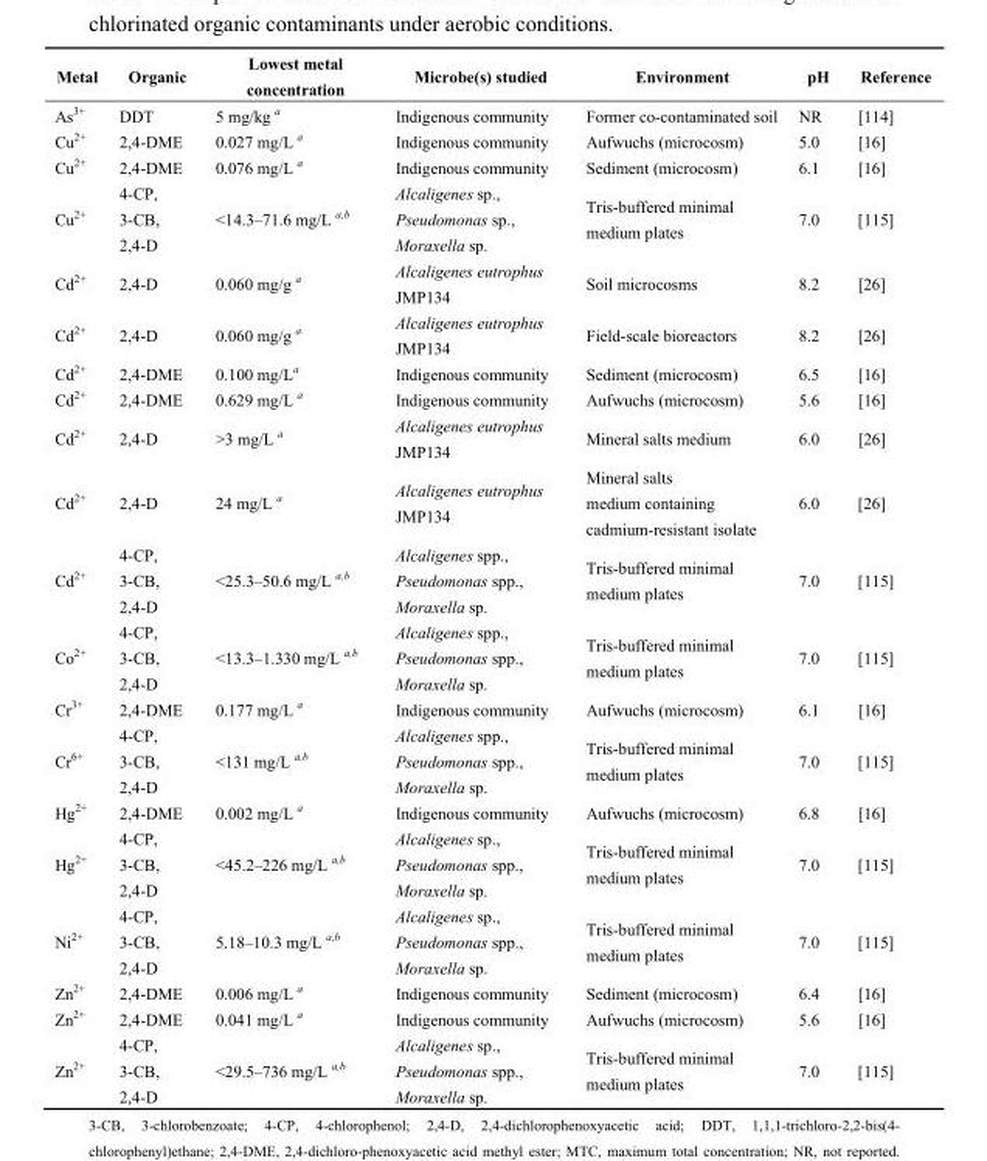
<table><thead><tr><td>Metal</td><td>Organic</td><td>Lowest metal concentration</td><td>Microbe(s) studied</td><td>Environment</td><td>pH</td><td>Reference</td></tr></thead><tbody><tr><td>As<sup>3+</sup></td><td>DDT</td><td>5 mg/kg a</td><td>Indigenous community</td><td>Former co-contaminated soil</td><td>NR</td><td>[114]</td></tr><tr><td>Cu<sup>2+</sup></td><td>2,4-DME</td><td>0.027 mg/L a</td><td>Indigenous community</td><td>Aufwuchs (microcosm)</td><td>5.0</td><td>[16]</td></tr><tr><td>Cu<sup>2+</sup></td><td>2,4-DME</td><td>0.076 mg/L a</td><td>Indigenous community</td><td>Sediment (microcosm)</td><td>6.1</td><td>[16]</td></tr><tr><td>Cu<sup>2+</sup></td><td>4-CP, 3-CB, 2,4-D</td><td>&lt;14.3–71.6 mg/L a,b</td><td>Alcaligenes sp., Pseudomonas sp., Moraxella sp.</td><td>Tris-buffered minimal medium plates</td><td>7.0</td><td>[115]</td></tr><tr><td>Cd<sup>2+</sup></td><td>2,4-D</td><td>0.060 mg/g a</td><td>Alcaligenes eutrophus JMP134</td><td>Soil microcosms</td><td>8.2</td><td>[26]</td></tr><tr><td>Cd<sup>2+</sup></td><td>2,4-D</td><td>0.060 mg/g a</td><td>Alcaligenes eutrophus JMP134</td><td>Field-scale bioreactors</td><td>8.2</td><td>[26]</td></tr><tr><td>Cd<sup>2+</sup></td><td>2,4-DME</td><td>0.100 mg/L<sup>a</sup></td><td>Indigenous community</td><td>Sediment (microcosm)</td><td>6.5</td><td>[16]</td></tr><tr><td>Cd<sup>2+</sup></td><td>2,4-DME</td><td>0.629 mg/L a</td><td>Indigenous community</td><td>Aufwuchs (microcosm)</td><td>5.6</td><td>[16]</td></tr><tr><td>Cd<sup>2+</sup></td><td>2,4-D</td><td>&gt;3 mg/L a</td><td>Alcaligenes eutrophus JMP134</td><td>Mineral salts medium</td><td>6.0</td><td>[26]</td></tr><tr><td>Cd<sup>2+</sup></td><td>2,4-D</td><td>24 mg/L a</td><td>Alcaligenes eutrophus JMP134</td><td>Mineral salts medium containing cadmium-resistant isolate</td><td>6.0</td><td>[26]</td></tr><tr><td>Cd<sup>2+</sup></td><td>4-CP, 3-CB, 2,4-D</td><td>&lt;25.3–50.6 mg/L a,b</td><td>Alcaligenes spp., Pseudomonas spp., Moraxella sp.</td><td>Tris-buffered minimal medium plates</td><td>7.0</td><td>[115]</td></tr><tr><td>Co<sup>2+</sup></td><td>4-CP, 3-CB, 2,4-D</td><td>&lt;13.3–1.330 mg/L a,b</td><td>Alcaligenes spp., Pseudomonas spp., Moraxella sp.</td><td>Tris-buffered minimal medium plates</td><td>7.0</td><td>[115]</td></tr><tr><td>Cr<sup>3+</sup></td><td>2,4-DME</td><td>0.177 mg/L a</td><td>Indigenous community</td><td>Aufwuchs (microcosm)</td><td>6.1</td><td>[16]</td></tr><tr><td>Cr<sup>6+</sup></td><td>4-CP, 3-CB, 2,4-D</td><td>&lt;131 mg/L a,b</td><td>Alcaligenes spp., Pseudomonas spp., Moraxella sp.</td><td>Tris-buffered minimal medium plates</td><td>7.0</td><td>[115]</td></tr><tr><td>Hg<sup>2+</sup></td><td>2,4-DME</td><td>0.002 mg/L a</td><td>Indigenous community</td><td>Aufwuchs (microcosm)</td><td>6.8</td><td>[16]</td></tr><tr><td>Hg<sup>2+</sup></td><td>4-CP, 3-CB, 2,4-D</td><td>&lt;45.2–226 mg/L a,b</td><td>Alcaligenes sp., Pseudomonas spp., Moraxella sp.</td><td>Tris-buffered minimal medium plates</td><td>7.0</td><td>[115]</td></tr><tr><td>Ni<sup>2+</sup></td><td>4-CP, 3-CB, 2,4-D</td><td>5.18–10.3 mg/L a,b</td><td>Alcaligenes sp., Pseudomonas spp., Moraxella sp.</td><td>Tris-buffered minimal medium plates</td><td>7.0</td><td>[115]</td></tr><tr><td>Zn<sup>2+</sup></td><td>2,4-DME</td><td>0.006 mg/L a</td><td>Indigenous community</td><td>Sediment (microcosm)</td><td>6.4</td><td>[16]</td></tr><tr><td>Zn<sup>2+</sup></td><td>2,4-DME</td><td>0.041 mg/L a</td><td>Indigenous community</td><td>Aufwuchs (microcosm)</td><td>5.6</td><td>[16]</td></tr><tr><td>Zn<sup>2+</sup></td><td>4-CP, 3-CB, 2,4-D</td><td>&lt;29.5–736 mg/L a,b</td><td>Alcaligenes sp., Pseudomonas spp., Moraxella sp.</td><td>Tris-buffered minimal medium plates</td><td>7.0</td><td>[115]</td></tr></tbody></table>